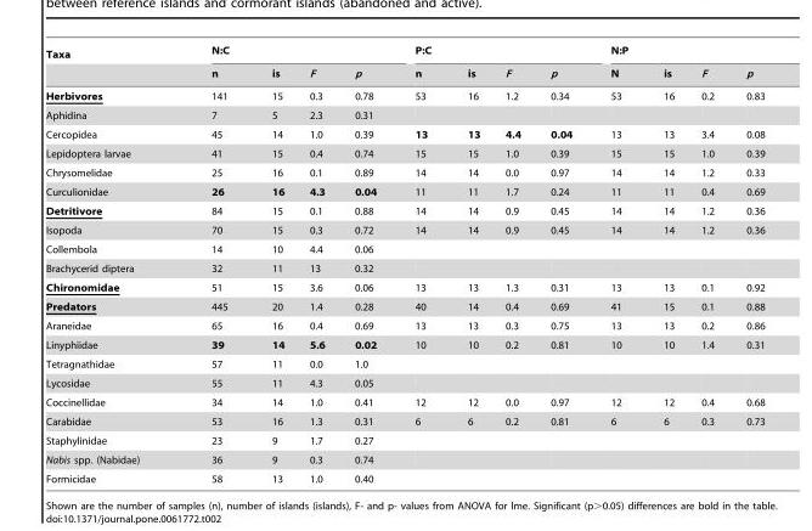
<table><thead><tr><td rowspan="2">Taxa</td><td colspan="4">N:C</td><td colspan="4">P:C</td><td colspan="4">N:P</td></tr><tr><td>n</td><td>is</td><td>F</td><td>p</td><td>n</td><td>is</td><td>F</td><td>p</td><td>N</td><td>is</td><td>F</td><td>p</td></tr></thead><tbody><tr><td>Herbivores</td><td>141</td><td>15</td><td>0.3</td><td>0.78</td><td>53</td><td>16</td><td>1.2</td><td>0.34</td><td>53</td><td>16</td><td>0.2</td><td>0.83</td></tr><tr><td>Aphidina</td><td>7</td><td>5</td><td>2.3</td><td>0.31</td><td></td><td></td><td></td><td></td><td></td><td></td><td></td><td></td></tr><tr><td>Cercopidea</td><td>45</td><td>14</td><td>1.0</td><td>0.39</td><td>13</td><td>13</td><td>4.4</td><td>0.04</td><td>13</td><td>13</td><td>3.4</td><td>0.08</td></tr><tr><td>Lepidoptera larvae</td><td>41</td><td>15</td><td>0.4</td><td>0.74</td><td>15</td><td>15</td><td>1.0</td><td>0.39</td><td>15</td><td>15</td><td>1.0</td><td>0.39</td></tr><tr><td>Chrysomelidae</td><td>25</td><td>16</td><td>0.1</td><td>0.89</td><td>14</td><td>14</td><td>0.0</td><td>0.97</td><td>14</td><td>14</td><td>1.2</td><td>0.33</td></tr><tr><td>Curculionidae</td><td>26</td><td>16</td><td>4.3</td><td>0.04</td><td>11</td><td>11</td><td>1.7</td><td>0.24</td><td>11</td><td>11</td><td>0.4</td><td>0.69</td></tr><tr><td>Detritivore</td><td>84</td><td>15</td><td>0.1</td><td>0.88</td><td>14</td><td>14</td><td>0.9</td><td>0.45</td><td>14</td><td>14</td><td>1.2</td><td>0.36</td></tr><tr><td>Isopoda</td><td>70</td><td>15</td><td>0.3</td><td>0.72</td><td>14</td><td>14</td><td>0.9</td><td>0.45</td><td>14</td><td>14</td><td>1.2</td><td>0.36</td></tr><tr><td>Collembola</td><td>14</td><td>10</td><td>4.4</td><td>0.06</td><td></td><td></td><td></td><td></td><td></td><td></td><td></td><td></td></tr><tr><td>Brachycerid diptera</td><td>32</td><td>11</td><td>13</td><td>0.32</td><td></td><td></td><td></td><td></td><td></td><td></td><td></td><td></td></tr><tr><td>Chironomidae</td><td>51</td><td>15</td><td>3.6</td><td>0.06</td><td>13</td><td>13</td><td>1.3</td><td>0.31</td><td>13</td><td>13</td><td>0.1</td><td>0.92</td></tr><tr><td>Predators</td><td>445</td><td>20</td><td>1.4</td><td>0.28</td><td>40</td><td>14</td><td>0.4</td><td>0.69</td><td>41</td><td>15</td><td>0.1</td><td>0.88</td></tr><tr><td>Araneidae</td><td>65</td><td>16</td><td>0.4</td><td>0.69</td><td>13</td><td>13</td><td>0.3</td><td>0.75</td><td>13</td><td>13</td><td>0.2</td><td>0.86</td></tr><tr><td>Linyphiidae</td><td>39</td><td>14</td><td>5.6</td><td>0.02</td><td>10</td><td>10</td><td>0.2</td><td>0.81</td><td>10</td><td>10</td><td>1.4</td><td>0.31</td></tr><tr><td>Tetragnathidae</td><td>57</td><td>11</td><td>0.0</td><td>1.0</td><td></td><td></td><td></td><td></td><td></td><td></td><td></td><td></td></tr><tr><td>Lycosidae</td><td>55</td><td>11</td><td>4.3</td><td>0.05</td><td></td><td></td><td></td><td></td><td></td><td></td><td></td><td></td></tr><tr><td>Coccinellidae</td><td>34</td><td>14</td><td>1.0</td><td>0.41</td><td>12</td><td>12</td><td>0.0</td><td>0.97</td><td>12</td><td>12</td><td>0.4</td><td>0.68</td></tr><tr><td>Carabidae</td><td>53</td><td>16</td><td>1.3</td><td>0.31</td><td>6</td><td>6</td><td>0.2</td><td>0.81</td><td>6</td><td>6</td><td>0.3</td><td>0.73</td></tr><tr><td>Staphylinidae</td><td>23</td><td>9</td><td>1.7</td><td>0.27</td><td></td><td></td><td></td><td></td><td></td><td></td><td></td><td></td></tr><tr><td>Nabis spp. (Nabidae)</td><td>36</td><td>9</td><td>0.3</td><td>0.74</td><td></td><td></td><td></td><td></td><td></td><td></td><td></td><td></td></tr><tr><td>Formicidae</td><td>58</td><td>13</td><td>1.0</td><td>0.40</td><td></td><td></td><td></td><td></td><td></td><td></td><td></td><td></td></tr></tbody></table>